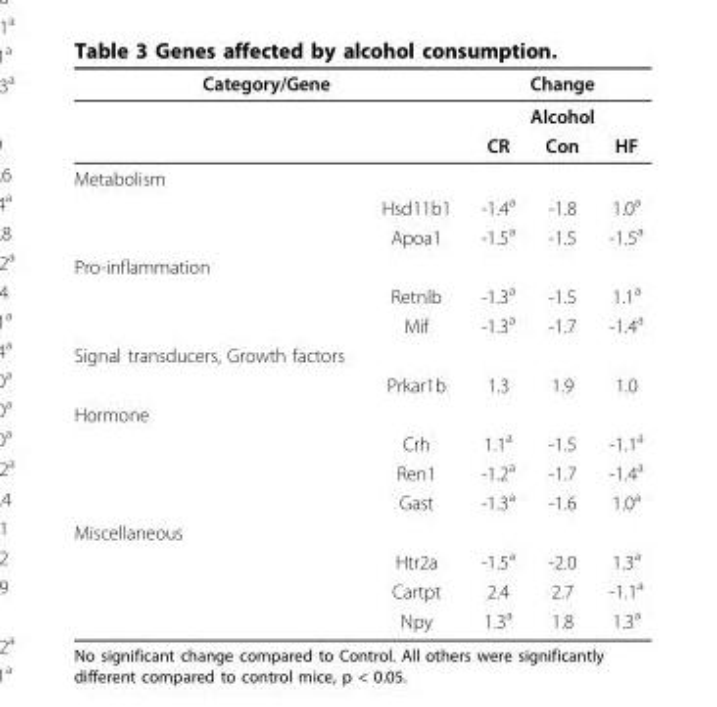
<table><thead><tr><td colspan="2">Category/Gene</td><td rowspan="2" colspan="3">Change Alcohol</td></tr><tr><td rowspan="2"></td><td rowspan="2"></td></tr><tr><td>CR</td><td>Con</td><td>HF</td></tr></thead><tbody><tr><td colspan="5">Metabolism</td></tr><tr><td></td><td>Hsd11b1</td><td>-1.4<sup>a</sup></td><td>-1.8</td><td>1.0<sup>a</sup></td></tr><tr><td></td><td>Apoa1</td><td>-1.5<sup>a</sup></td><td>-1.5</td><td>-1.5<sup>a</sup></td></tr><tr><td colspan="5">Pro-inflammation</td></tr><tr><td></td><td>Retnlb</td><td>-1.3<sup>a</sup></td><td>-1.5</td><td>1.1<sup>a</sup></td></tr><tr><td></td><td>Mif</td><td>-1.3<sup>a</sup></td><td>-1.7</td><td>-1.4<sup>a</sup></td></tr><tr><td colspan="5">Signal transducers, Growth factors</td></tr><tr><td></td><td>Prkar1b</td><td>1.3</td><td>1.9</td><td>1.0</td></tr><tr><td colspan="5">Hormone</td></tr><tr><td></td><td>Crh</td><td>1.1<sup>a</sup></td><td>-1.5</td><td>-1.1<sup>a</sup></td></tr><tr><td></td><td>Ren1</td><td>-1.2<sup>a</sup></td><td>-1.7</td><td>-1.4<sup>a</sup></td></tr><tr><td></td><td>Gast</td><td>-1.3<sup>a</sup></td><td>-1.6</td><td>1.0<sup>a</sup></td></tr><tr><td colspan="5">Miscellaneous</td></tr><tr><td></td><td>Htr2a</td><td>-1.5<sup>a</sup></td><td>-2.0</td><td>1.3<sup>a</sup></td></tr><tr><td></td><td>Cartpt</td><td>2.4</td><td>2.7</td><td>-1.1<sup>a</sup></td></tr><tr><td></td><td>Npy</td><td>1.3<sup>a</sup></td><td>1.8</td><td>1.3<sup>a</sup></td></tr></tbody></table>